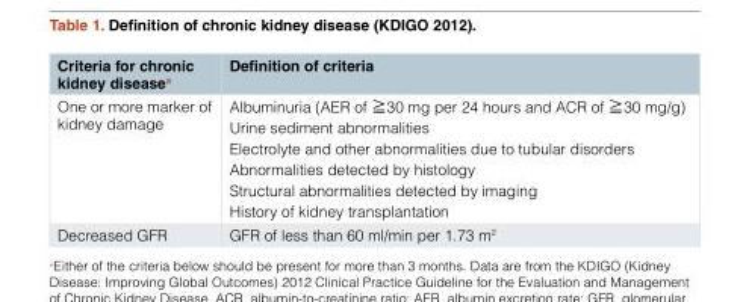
<table><thead><tr><td>Criteria for chronic kidney disease<sup>a</sup></td><td>Definition of criteria</td></tr></thead><tbody><tr><td>One or more marker of kidney damage</td><td>Albuminuria (AER of ≧30 mg per 24 hours and ACR of ≧30 mg/g) Urine sediment abnormalities Electrolyte and other abnormalities due to tubular disorders Abnormalities detected by histology Structural abnormalities detected by imaging History of kidney transplantation</td></tr><tr><td>Decreased GFR</td><td>GFR of less than 60 ml/min per 1.73 m<sup>2</sup></td></tr></tbody></table>